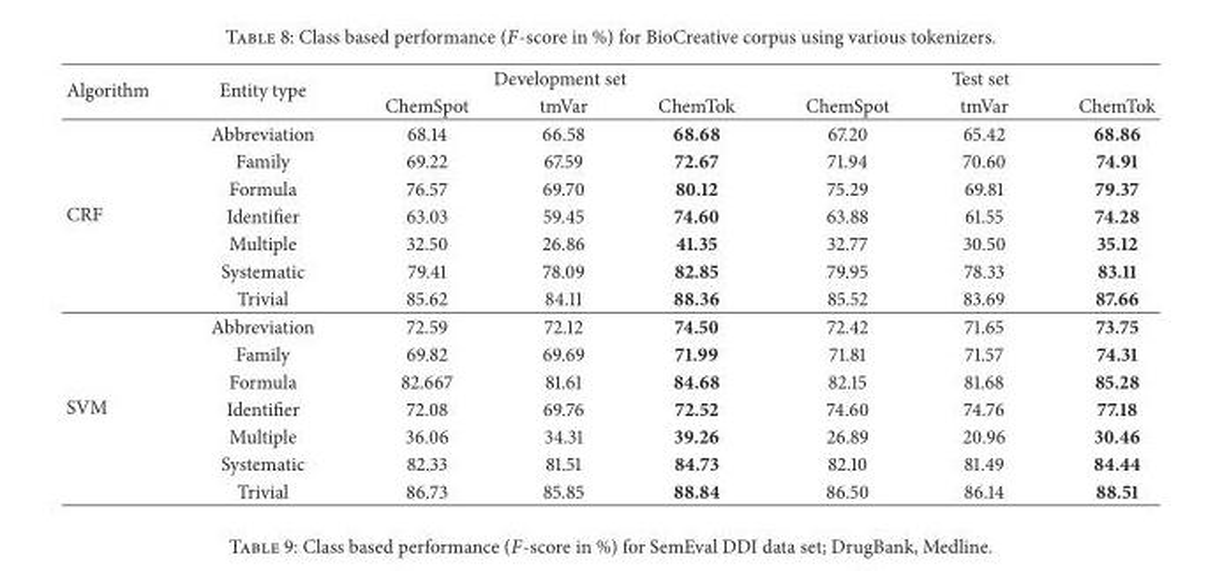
<table><thead><tr><td rowspan="2">Algorithm</td><td rowspan="2">Entity type</td><td colspan="3">Development set</td><td colspan="3">Test set</td></tr><tr><td>ChemSpot</td><td>tmVar</td><td>ChemTok</td><td>ChemSpot</td><td>tmVar</td><td>ChemTok</td></tr></thead><tbody><tr><td rowspan="7">CRF</td><td>Abbreviation</td><td>68.14</td><td>66.58</td><td>68.68</td><td>67.20</td><td>65.42</td><td>68.86</td></tr><tr><td>Family</td><td>69.22</td><td>67.59</td><td>72.67</td><td>71.94</td><td>70.60</td><td>74.91</td></tr><tr><td>Formula</td><td>76.57</td><td>69.70</td><td>80.12</td><td>75.29</td><td>69.81</td><td>79.37</td></tr><tr><td>Identifier</td><td>63.03</td><td>59.45</td><td>74.60</td><td>63.88</td><td>61.55</td><td>74.28</td></tr><tr><td>Multiple</td><td>32.50</td><td>26.86</td><td>41.35</td><td>32.77</td><td>30.50</td><td>35.12</td></tr><tr><td>Systematic</td><td>79.41</td><td>78.09</td><td>82.85</td><td>79.95</td><td>78.33</td><td>83.11</td></tr><tr><td>Trivial</td><td>85.62</td><td>84.11</td><td>88.36</td><td>85.52</td><td>83.69</td><td>87.66</td></tr><tr><td rowspan="7">SVM</td><td>Abbreviation</td><td>72.59</td><td>72.12</td><td>74.50</td><td>72.42</td><td>71.65</td><td>73.75</td></tr><tr><td>Family</td><td>69.82</td><td>69.69</td><td>71.99</td><td>71.81</td><td>71.57</td><td>74.31</td></tr><tr><td>Formula</td><td>82.667</td><td>81.61</td><td>84.68</td><td>82.15</td><td>81.68</td><td>85.28</td></tr><tr><td>Identifier</td><td>72.08</td><td>69.76</td><td>72.52</td><td>74.60</td><td>74.76</td><td>77.18</td></tr><tr><td>Multiple</td><td>36.06</td><td>34.31</td><td>39.26</td><td>26.89</td><td>20.96</td><td>30.46</td></tr><tr><td>Systematic</td><td>82.33</td><td>81.51</td><td>84.73</td><td>82.10</td><td>81.49</td><td>84.44</td></tr><tr><td>Trivial</td><td>86.73</td><td>85.85</td><td>88.84</td><td>86.50</td><td>86.14</td><td>88.51</td></tr></tbody></table>